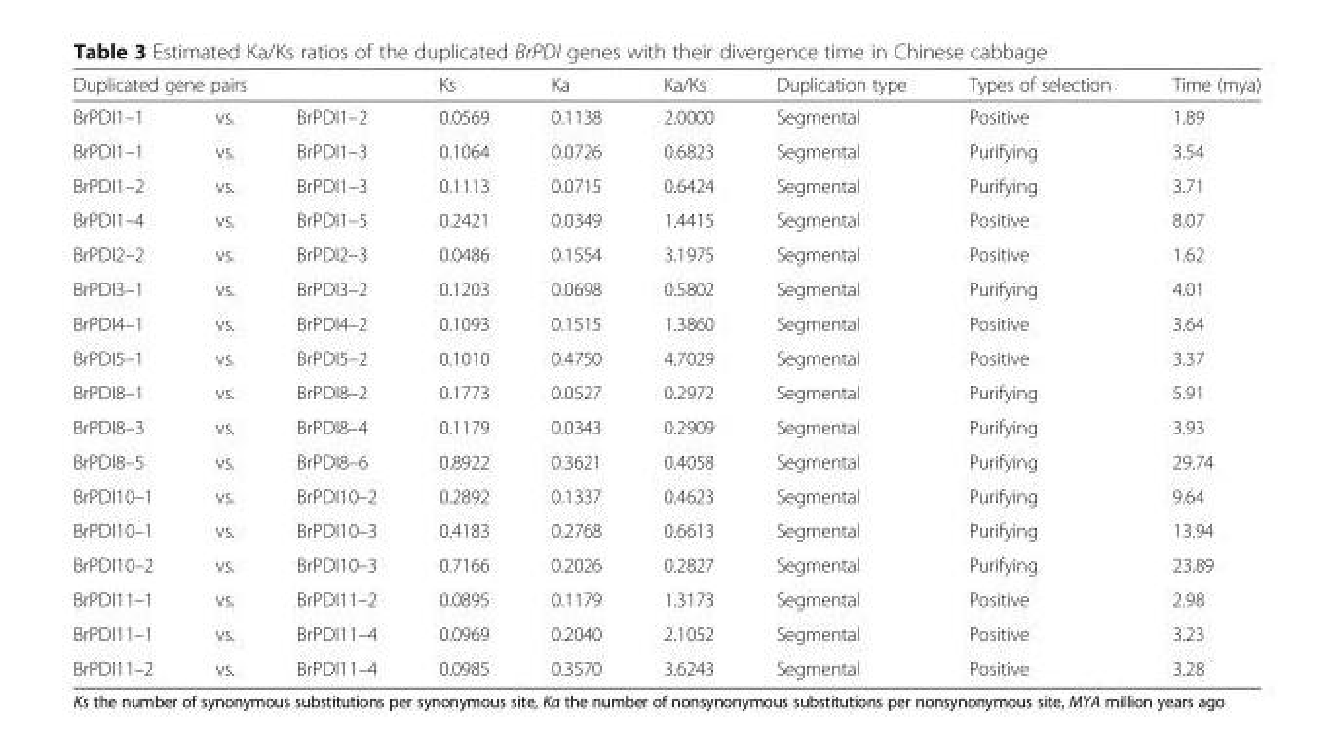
<table><thead><tr><td colspan="3">Duplicated gene pairs</td><td rowspan="2">Ks 0.0569</td><td rowspan="2">Ka 0.1138</td><td rowspan="2">Ka/Ks 2.0000</td><td rowspan="2">Duplication type Segmental</td><td rowspan="2">Types of selection Positive</td><td rowspan="2">Time (mya) 1.89</td></tr><tr><td>BrPDI1–1</td><td>vs.</td><td>BrPDI1–2</td></tr></thead><tbody><tr><td>BrPDI1–1</td><td>vs.</td><td>BrPDI1–3</td><td>0.1064</td><td>0.0726</td><td>0.6823</td><td>Segmental</td><td>Purifying</td><td>3.54</td></tr><tr><td>BrPDI1–2</td><td>vs.</td><td>BrPDI1–3</td><td>0.1113</td><td>0.0715</td><td>0.6424</td><td>Segmental</td><td>Purifying</td><td>3.71</td></tr><tr><td>BrPDI1–4</td><td>vs.</td><td>BrPDI1–5</td><td>0.2421</td><td>0.0349</td><td>1.4415</td><td>Segmental</td><td>Positive</td><td>8.07</td></tr><tr><td>BrPDI2–2</td><td>vs.</td><td>BrPDI2–3</td><td>0.0486</td><td>0.1554</td><td>3.1975</td><td>Segmental</td><td>Positive</td><td>1.62</td></tr><tr><td>BrPDI3–1</td><td>vs.</td><td>BrPDI3–2</td><td>0.1203</td><td>0.0698</td><td>0.5802</td><td>Segmental</td><td>Purifying</td><td>4.01</td></tr><tr><td>BrPDI4–1</td><td>vs.</td><td>BrPDI4–2</td><td>0.1093</td><td>0.1515</td><td>1.3860</td><td>Segmental</td><td>Positive</td><td>3.64</td></tr><tr><td>BrPDI5–1</td><td>vs.</td><td>BrPDI5–2</td><td>0.1010</td><td>0.4750</td><td>4.7029</td><td>Segmental</td><td>Positive</td><td>3.37</td></tr><tr><td>BrPDI8–1</td><td>vs.</td><td>BrPDI8–2</td><td>0.1773</td><td>0.0527</td><td>0.2972</td><td>Segmental</td><td>Purifying</td><td>5.91</td></tr><tr><td>BrPDI8–3</td><td>vs.</td><td>BrPDI8–4</td><td>0.1179</td><td>0.0343</td><td>0.2909</td><td>Segmental</td><td>Purifying</td><td>3.93</td></tr><tr><td>BrPDI8–5</td><td>vs.</td><td>BrPDI8–6</td><td>0.8922</td><td>0.3621</td><td>0.4058</td><td>Segmental</td><td>Purifying</td><td>29.74</td></tr><tr><td>BrPDI10–1</td><td>vs.</td><td>BrPDI10–2</td><td>0.2892</td><td>0.1337</td><td>0.4623</td><td>Segmental</td><td>Purifying</td><td>9.64</td></tr><tr><td>BrPDI10–1</td><td>vs.</td><td>BrPDI10–3</td><td>0.4183</td><td>0.2768</td><td>0.6613</td><td>Segmental</td><td>Purifying</td><td>13.94</td></tr><tr><td>BrPDI10–2</td><td>vs.</td><td>BrPDI10–3</td><td>0.7166</td><td>0.2026</td><td>0.2827</td><td>Segmental</td><td>Purifying</td><td>23.89</td></tr><tr><td>BrPDI11–1</td><td>vs.</td><td>BrPDI11–2</td><td>0.0895</td><td>0.1179</td><td>1.3173</td><td>Segmental</td><td>Positive</td><td>2.98</td></tr><tr><td>BrPDI11–1</td><td>vs.</td><td>BrPDI11–4</td><td>0.0969</td><td>0.2040</td><td>2.1052</td><td>Segmental</td><td>Positive</td><td>3.23</td></tr><tr><td>BrPDI11–2</td><td>vs.</td><td>BrPDI11–4</td><td>0.0985</td><td>0.3570</td><td>3.6243</td><td>Segmental</td><td>Positive</td><td>3.28</td></tr></tbody></table>